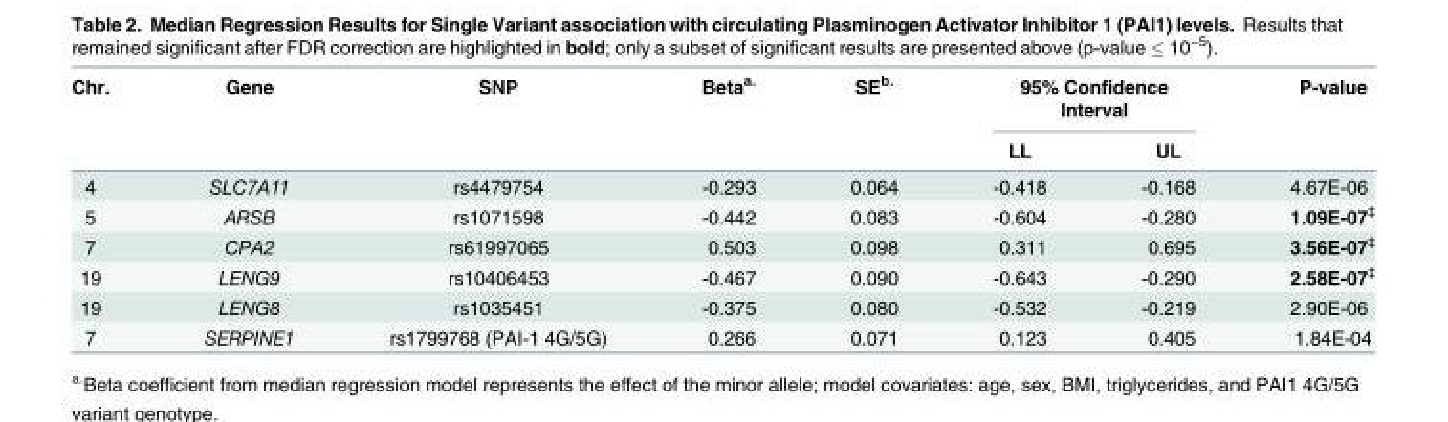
<table><thead><tr><td rowspan="2">Chr.</td><td rowspan="2">Gene</td><td rowspan="2">SNP</td><td rowspan="2">Beta<sup>a.</sup></td><td rowspan="2">SE<sup>b.</sup></td><td colspan="2">95% Confidence Interval</td><td rowspan="2">P-value</td></tr><tr><td>LL</td><td>UL</td></tr></thead><tbody><tr><td>4</td><td>SLC7A11</td><td>rs4479754</td><td>-0.293</td><td>0.064</td><td>-0.418</td><td>-0.168</td><td>4.67E-06</td></tr><tr><td>5</td><td>ARSB</td><td>rs1071598</td><td>-0.442</td><td>0.083</td><td>-0.604</td><td>-0.280</td><td>1.09E-07<sup>‡</sup></td></tr><tr><td>7</td><td>CPA2</td><td>rs61997065</td><td>0.503</td><td>0.098</td><td>0.311</td><td>0.695</td><td>3.56E-07<sup>‡</sup></td></tr><tr><td>19</td><td>LENG9</td><td>rs10406453</td><td>-0.467</td><td>0.090</td><td>-0.643</td><td>-0.290</td><td>2.58E-07<sup>‡</sup></td></tr><tr><td>19</td><td>LENG8</td><td>rs1035451</td><td>-0.375</td><td>0.080</td><td>-0.532</td><td>-0.219</td><td>2.90E-06</td></tr><tr><td>7</td><td>SERPINE1</td><td>rs1799768 (PAI-1 4G/5G)</td><td>0.266</td><td>0.071</td><td>0.123</td><td>0.405</td><td>1.84E-04</td></tr></tbody></table>